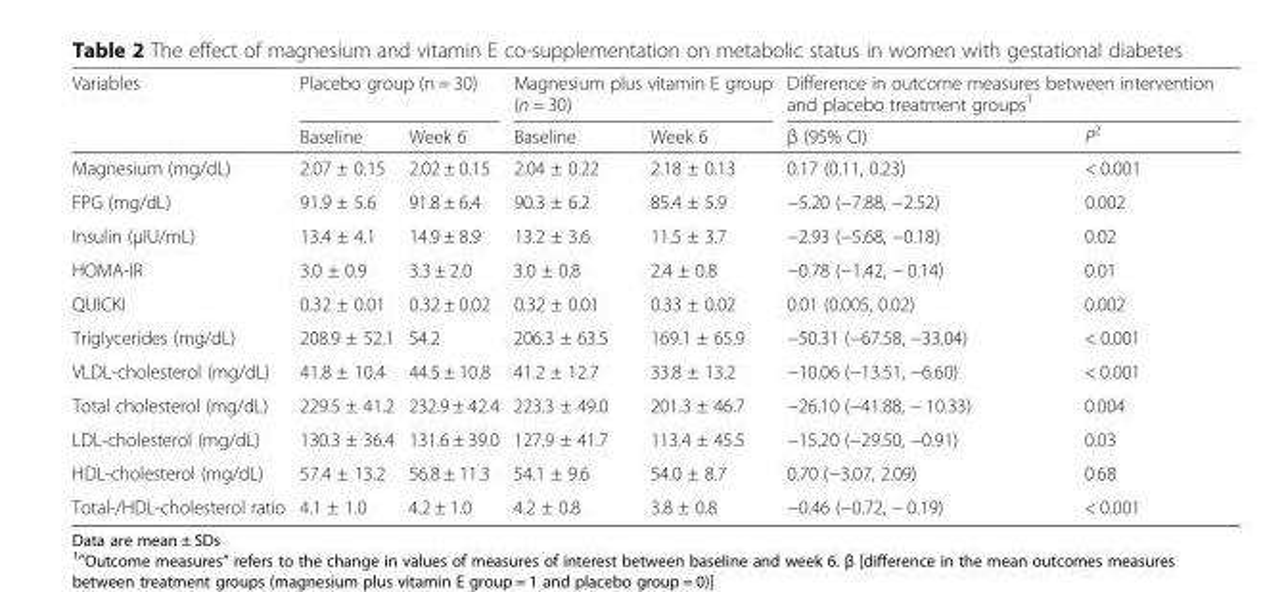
<table><thead><tr><td rowspan="2">Variables</td><td colspan="2">Placebo group (n = 30)</td><td colspan="2">Magnesium plus vitamin E group (n = 30)</td><td colspan="2">Difference in outcome measures between intervention and placebo treatment groups<sup>1</sup></td></tr><tr><td>Baseline</td><td>Week 6</td><td>Baseline</td><td>Week 6</td><td>β (95% CI)</td><td>P<sup>2</sup></td></tr></thead><tbody><tr><td>Magnesium (mg/dL)</td><td>2.07 ± 0.15</td><td>2.02 ± 0.15</td><td>2.04 ± 0.22</td><td>2.18 ± 0.13</td><td>0.17 (0.11, 0.23)</td><td>&lt; 0.001</td></tr><tr><td>FPG (mg/dL)</td><td>91.9 ± 5.6</td><td>91.8 ± 6.4</td><td>90.3 ± 6.2</td><td>85.4 ± 5.9</td><td>−5.20 (−7.88, −2.52)</td><td>0.002</td></tr><tr><td>Insulin (μIU/mL)</td><td>13.4 ± 4.1</td><td>14.9 ± 8.9</td><td>13.2 ± 3.6</td><td>11.5 ± 3.7</td><td>−2.93 (−5.68, −0.18)</td><td>0.02</td></tr><tr><td>HOMA-IR</td><td>3.0 ± 0.9</td><td>3.3 ± 2.0</td><td>3.0 ± 0.8</td><td>2.4 ± 0.8</td><td>−0.78 (−1.42, − 0.14)</td><td>0.01</td></tr><tr><td>QUICKI</td><td>0.32 ± 0.01</td><td>0.32 ± 0.02</td><td>0.32 ± 0.01</td><td>0.33 ± 0.02</td><td>0.01 (0.005, 0.02)</td><td>0.002</td></tr><tr><td>Triglycerides (mg/dL)</td><td>208.9 ± 52.1</td><td>54.2</td><td>206.3 ± 63.5</td><td>169.1 ± 65.9</td><td>−50.31 (−67.58, −33.04)</td><td>&lt; 0.001</td></tr><tr><td>VLDL-cholesterol (mg/dL)</td><td>41.8 ± 10.4</td><td>44.5 ± 10.8</td><td>41.2 ± 12.7</td><td>33.8 ± 13.2</td><td>−10.06 (−13.51, −6.60)</td><td>&lt; 0.001</td></tr><tr><td>Total cholesterol (mg/dL)</td><td>229.5 ± 41.2</td><td>232.9 ± 42.4</td><td>223.3 ± 49.0</td><td>201.3 ± 46.7</td><td>−26.10 (−41.88, − 10.33)</td><td>0.004</td></tr><tr><td>LDL-cholesterol (mg/dL)</td><td>130.3 ± 36.4</td><td>131.6 ± 39.0</td><td>127.9 ± 41.7</td><td>113.4 ± 45.5</td><td>−15.20 (−29.50, −0.91)</td><td>0.03</td></tr><tr><td>HDL-cholesterol (mg/dL)</td><td>57.4 ± 13.2</td><td>56.8 ± 11.3</td><td>54.1 ± 9.6</td><td>54.0 ± 8.7</td><td>0.70 (−3.07, 2.09)</td><td>0.68</td></tr><tr><td>Total-/HDL-cholesterol ratio</td><td>4.1 ± 1.0</td><td>4.2 ± 1.0</td><td>4.2 ± 0.8</td><td>3.8 ± 0.8</td><td>−0.46 (−0.72, − 0.19)</td><td>&lt; 0.001</td></tr></tbody></table>